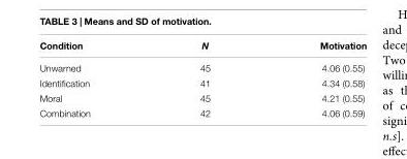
<table><thead><tr><td>Condition</td><td>N</td><td>Motivation</td></tr></thead><tbody><tr><td>Unwarned</td><td>45</td><td>4.06 (0.55)</td></tr><tr><td>Identification</td><td>41</td><td>4.34 (0.58)</td></tr><tr><td>Moral</td><td>45</td><td>4.21 (0.55)</td></tr><tr><td>Combination</td><td>42</td><td>4.06 (0.59)</td></tr></tbody></table>